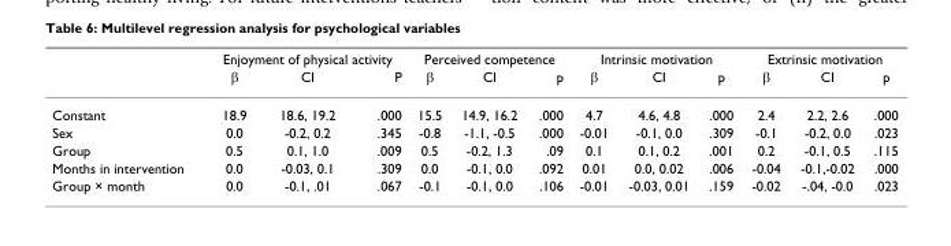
<table><thead><tr><td rowspan="2"></td><td colspan="3">Enjoyment of physical activity</td><td colspan="3">Perceived competence</td><td colspan="3">Intrinsic motivation</td><td colspan="3">Extrinsic motivation</td></tr><tr><td>β</td><td>CI</td><td>P</td><td>β</td><td>CI</td><td>p</td><td>β</td><td>CI</td><td>p</td><td>β</td><td>CI</td><td>p</td></tr></thead><tbody><tr><td>Constant</td><td>18.9</td><td>18.6, 19.2</td><td>.000</td><td>15.5</td><td>14.9, 16.2</td><td>.000</td><td>4.7</td><td>4.6, 4.8</td><td>.000</td><td>2.4</td><td>2.2, 2.6</td><td>.000</td></tr><tr><td>Sex</td><td>0.0</td><td>-0.2, 0.2</td><td>.345</td><td>-0.8</td><td>-1.1, -0.5</td><td>.000</td><td>-0.01</td><td>-0.1, 0.0</td><td>.309</td><td>-0.1</td><td>-0.2, 0.0</td><td>.023</td></tr><tr><td>Group</td><td>0.5</td><td>0.1, 1.0</td><td>.009</td><td>0.5</td><td>-0.2, 1.3</td><td>.09</td><td>0.1</td><td>0.1, 0.2</td><td>.001</td><td>0.2</td><td>-0.1, 0.5</td><td>.115</td></tr><tr><td>Months in intervention</td><td>0.0</td><td>-0.03, 0.1</td><td>.309</td><td>0.0</td><td>-0.1, 0.0</td><td>.092</td><td>0.01</td><td>0.0, 0.02</td><td>.006</td><td>-0.04</td><td>-0.1,-0.02</td><td>.000</td></tr><tr><td>Group × month</td><td>0.0</td><td>-0.1, .01</td><td>.067</td><td>-0.1</td><td>-0.1, 0.0</td><td>.106</td><td>-0.01</td><td>-0.03, 0.01</td><td>.159</td><td>-0.02</td><td>-.04, -0.0</td><td>.023</td></tr></tbody></table>